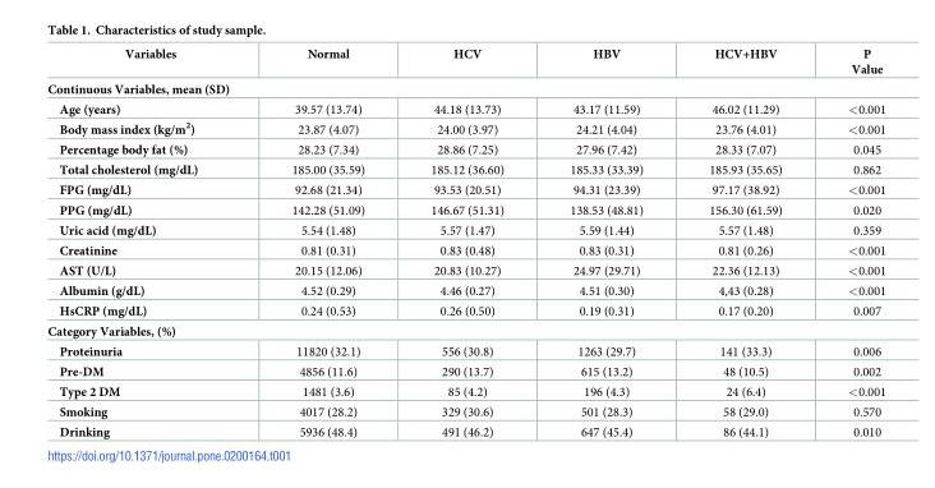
<table><thead><tr><td>Variables</td><td>Normal</td><td>HCV</td><td>HBV</td><td>HCV+HBV</td><td>P Value</td></tr></thead><tbody><tr><td colspan="6">Continuous Variables, mean (SD)</td></tr><tr><td>Age (years)</td><td>39.57 (13.74)</td><td>44.18 (13.73)</td><td>43.17 (11.59)</td><td>46.02 (11.29)</td><td>&lt;0.001</td></tr><tr><td>Body mass index (kg/m<sup>2</sup>)</td><td>23.87 (4.07)</td><td>24.00 (3.97)</td><td>24.21 (4.04)</td><td>23.76 (4.01)</td><td>&lt;0.001</td></tr><tr><td>Percentage body fat (%)</td><td>28.23 (7.34)</td><td>28.86 (7.25)</td><td>27.96 (7.42)</td><td>28.33 (7.07)</td><td>0.045</td></tr><tr><td>Total cholesterol (mg/dL)</td><td>185.00 (35.59)</td><td>185.12 (36.60)</td><td>185.33 (33.39)</td><td>185.93 (35.65)</td><td>0.862</td></tr><tr><td>FPG (mg/dL)</td><td>92.68 (21.34)</td><td>93.53 (20.51)</td><td>94.31 (23.39)</td><td>97.17 (38.92)</td><td>&lt;0.001</td></tr><tr><td>PPG (mg/dL)</td><td>142.28 (51.09)</td><td>146.67 (51.31)</td><td>138.53 (48.81)</td><td>156.30 (61.59)</td><td>0.020</td></tr><tr><td>Uric acid (mg/dL)</td><td>5.54 (1.48)</td><td>5.57 (1.47)</td><td>5.59 (1.44)</td><td>5.57 (1.48)</td><td>0.359</td></tr><tr><td>Creatinine</td><td>0.81 (0.31)</td><td>0.83 (0.48)</td><td>0.83 (0.31)</td><td>0.81 (0.26)</td><td>&lt;0.001</td></tr><tr><td>AST (U/L)</td><td>20.15 (12.06)</td><td>20.83 (10.27)</td><td>24.97 (29.71)</td><td>22.36 (12.13)</td><td>&lt;0.001</td></tr><tr><td>Albumin (g/dL)</td><td>4.52 (0.29)</td><td>4.46 (0.27)</td><td>4.51 (0.30)</td><td>4,43 (0.28)</td><td>&lt;0.001</td></tr><tr><td>HsCRP (mg/dL)</td><td>0.24 (0.53)</td><td>0.26 (0.50)</td><td>0.19 (0.31)</td><td>0.17 (0.20)</td><td>0.007</td></tr><tr><td colspan="6">Category Variables, (%)</td></tr><tr><td>Proteinuria</td><td>11820 (32.1)</td><td>556 (30.8)</td><td>1263 (29.7)</td><td>141 (33.3)</td><td>0.006</td></tr><tr><td>Pre-DM</td><td>4856 (11.6)</td><td>290 (13.7)</td><td>615 (13.2)</td><td>48 (10.5)</td><td>0.002</td></tr><tr><td>Type 2 DM</td><td>1481 (3.6)</td><td>85 (4.2)</td><td>196 (4.3)</td><td>24 (6.4)</td><td>&lt;0.001</td></tr><tr><td>Smoking</td><td>4017 (28.2)</td><td>329 (30.6)</td><td>501 (28.3)</td><td>58 (29.0)</td><td>0.570</td></tr><tr><td>Drinking</td><td>5936 (48.4)</td><td>491 (46.2)</td><td>647 (45.4)</td><td>86 (44.1)</td><td>0.010</td></tr></tbody></table>